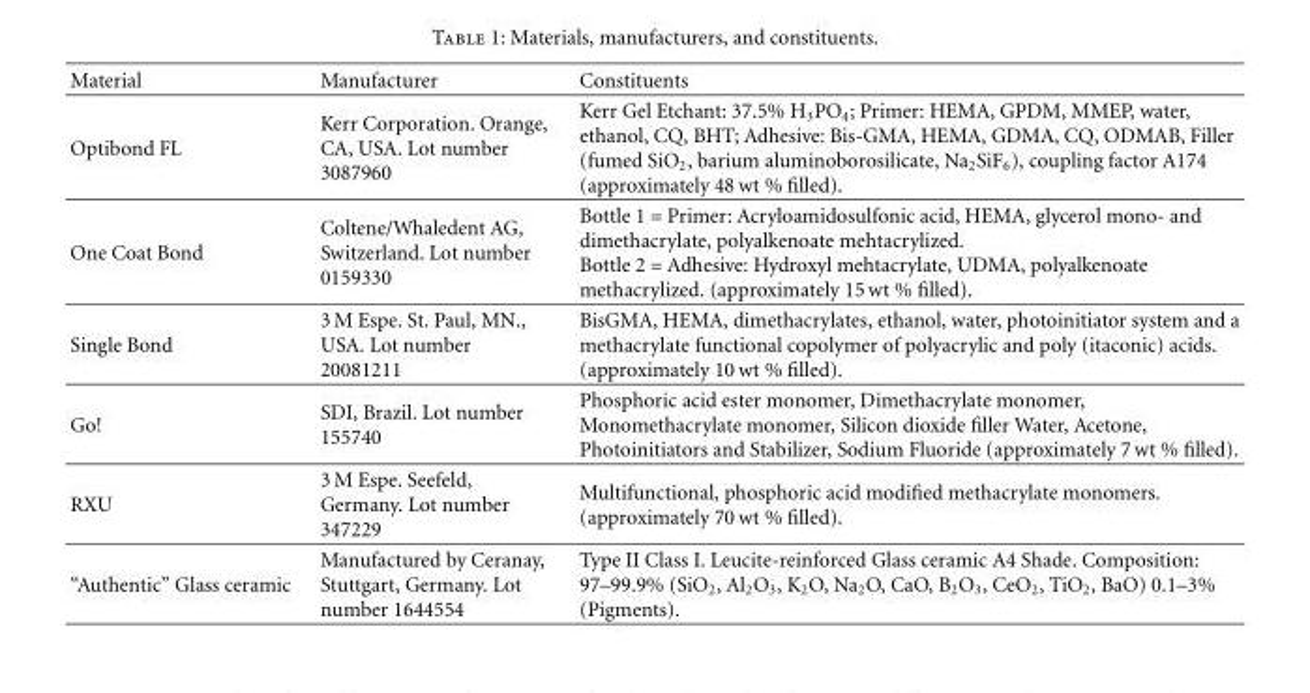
<table><thead><tr><td>Material</td><td>Manufacturer</td><td>Constituents</td></tr></thead><tbody><tr><td>Optibond FL</td><td>Kerr Corporation. Orange, CA, USA. Lot number 3087960</td><td>Kerr Gel Etchant: 37.5% H<sub>3</sub>PO<sub>4</sub>; Primer: HEMA, GPDM, MMEP, water, ethanol, CQ, BHT; Adhesive: Bis-GMA, HEMA, GDMA, CQ, ODMAB, Filler (fumed SiO<sub>2</sub>, barium aluminoborosilicate, Na<sub>2</sub>SiF<sub>6</sub>), coupling factor A174 (approximately 48 wt % filled).</td></tr><tr><td>One Coat Bond</td><td>Coltene/Whaledent AG, Switzerland. Lot number 0159330</td><td>Bottle 1 = Primer: Acryloamidosulfonic acid, HEMA, glycerol mono- and dimethacrylate, polyalkenoate mehtacrylized. Bottle 2 = Adhesive: Hydroxyl mehtacrylate, UDMA, polyalkenoate methacrylized. (approximately 15 wt % filled).</td></tr><tr><td>Single Bond</td><td>3 M Espe. St. Paul, MN., USA. Lot number 20081211</td><td>BisGMA, HEMA, dimethacrylates, ethanol, water, photoinitiator system and a methacrylate functional copolymer of polyacrylic and poly (itaconic) acids. (approximately 10 wt % filled).</td></tr><tr><td>Go!</td><td>SDI, Brazil. Lot number 155740</td><td>Phosphoric acid ester monomer, Dimethacrylate monomer, Monomethacrylate monomer, Silicon dioxide filler Water, Acetone, Photoinitiators and Stabilizer, Sodium Fluoride (approximately 7 wt % filled).</td></tr><tr><td>RXU</td><td>3 M Espe. Seefeld, Germany. Lot number 347229</td><td>Multifunctional, phosphoric acid modified methacrylate monomers. (approximately 70 wt % filled).</td></tr><tr><td>“Authentic” Glass ceramic</td><td>Manufactured by Ceranay, Stuttgart, Germany. Lot number 1644554</td><td>Type II Class I. Leucite-reinforced Glass ceramic A4 Shade. Composition: 97–99.9% (SiO<sub>2</sub>, Al<sub>2</sub>O<sub>3</sub>, K<sub>2</sub>O, Na<sub>2</sub>O, CaO, B<sub>2</sub>O<sub>3</sub>, CeO<sub>2</sub>, TiO<sub>2</sub>, BaO) 0.1–3% (Pigments).</td></tr></tbody></table>